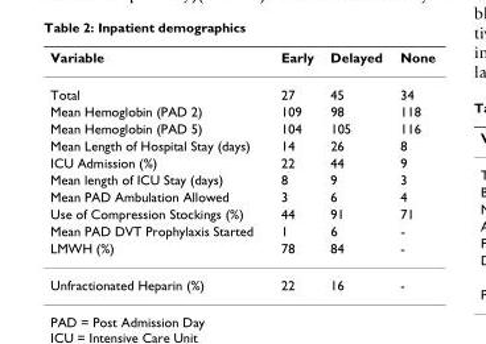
<table><thead><tr><td>Variable</td><td>Early</td><td>Delayed</td><td>None</td></tr></thead><tbody><tr><td>Total</td><td>27</td><td>45</td><td>34</td></tr><tr><td>Mean Hemoglobin (PAD 2)</td><td>109</td><td>98</td><td>118</td></tr><tr><td>Mean Hemoglobin (PAD 5)</td><td>104</td><td>105</td><td>116</td></tr><tr><td>Mean Length of Hospital Stay (days)</td><td>14</td><td>26</td><td>8</td></tr><tr><td>ICU Admission (%)</td><td>22</td><td>44</td><td>9</td></tr><tr><td>Mean length of ICU Stay (days)</td><td>8</td><td>9</td><td>3</td></tr><tr><td>Mean PAD Ambulation Allowed</td><td>3</td><td>6</td><td>4</td></tr><tr><td>Use of Compression Stockings (%)</td><td>44</td><td>91</td><td>71</td></tr><tr><td>Mean PAD DVT Prophylaxis Started</td><td>1</td><td>6</td><td>-</td></tr><tr><td>LMWH (%)</td><td>78</td><td>84</td><td>-</td></tr><tr><td>Unfractionated Heparin (%)</td><td>22</td><td>16</td><td>-</td></tr></tbody></table>